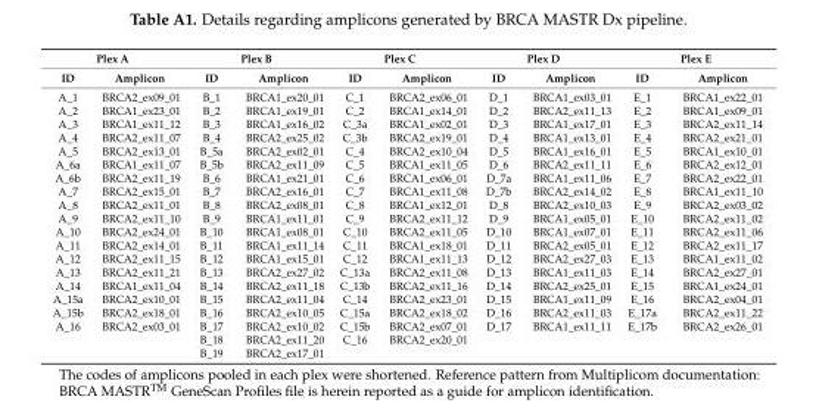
<table><thead><tr><td colspan="2">Plex A</td><td colspan="2">Plex B</td><td colspan="2">Plex C</td><td colspan="2">Plex D</td><td colspan="2">Plex E</td></tr><tr><td>ID</td><td>Amplicon</td><td>ID</td><td>Amplicon</td><td>ID</td><td>Amplicon</td><td>ID</td><td>Amplicon</td><td>ID</td><td>Amplicon</td></tr></thead><tbody><tr><td>A_1</td><td>BRCA2_ex09_01</td><td>B_1</td><td>BRCA1_ex20_01</td><td>C_1</td><td>BRCA2_ex06_01</td><td>D_1</td><td>BRCA1_ex03_01</td><td>E_1</td><td>BRCA1_ex22_01</td></tr><tr><td>A_2</td><td>BRCA1_ex23_01</td><td>B_2</td><td>BRCA1_ex19_01</td><td>C_2</td><td>BRCA1_ex14_01</td><td>D_2</td><td>BRCA2_ex11_13</td><td>E_2</td><td>BRCA1_ex09_01</td></tr><tr><td>A_3</td><td>BRCA1_ex11_12</td><td>B_3</td><td>BRCA1_ex16_02</td><td>C_3a</td><td>BRCA1_ex02_01</td><td>D_3</td><td>BRCA1_ex17_01</td><td>E_3</td><td>BRCA2_ex11_14</td></tr><tr><td>A_4</td><td>BRCA2_ex11_07</td><td>B_4</td><td>BRCA2_ex25_02</td><td>C_3b</td><td>BRCA2_ex19_01</td><td>D_4</td><td>BRCA1_ex13_01</td><td>E_4</td><td>BRCA2_ex21_01</td></tr><tr><td>A_5</td><td>BRCA2_ex13_01</td><td>B_5a</td><td>BRCA2_ex02_01</td><td>C_4</td><td>BRCA2_ex10_04</td><td>D_5</td><td>BRCA1_ex16_01</td><td>E_5</td><td>BRCA1_ex10_01</td></tr><tr><td>A_6a</td><td>BRCA1_ex11_07</td><td>B_5b</td><td>BRCA2_ex11_09</td><td>C_5</td><td>BRCA1_ex11_05</td><td>D_6</td><td>BRCA2_ex11_11</td><td>E_6</td><td>BRCA2_ex12_01</td></tr><tr><td>A_6b</td><td>BRCA2_ex11_19</td><td>B_6</td><td>BRCA1_ex21_01</td><td>C_6</td><td>BRCA1_ex06_01</td><td>D_7a</td><td>BRCA1_ex11_06</td><td>E_7</td><td>BRCA2_ex22_01</td></tr><tr><td>A_7</td><td>BRCA2_ex15_01</td><td>B_7</td><td>BRCA2_ex16_01</td><td>C_7</td><td>BRCA1_ex11_08</td><td>D_7b</td><td>BRCA2_ex14_02</td><td>E_8</td><td>BRCA1_ex11_10</td></tr><tr><td>A_8</td><td>BRCA2_ex11_01</td><td>B_8</td><td>BRCA2_ex08_01</td><td>C_8</td><td>BRCA1_ex12_01</td><td>D_8</td><td>BRCA2_ex10_03</td><td>E_9</td><td>BRCA2_ex03_02</td></tr><tr><td>A_9</td><td>BRCA2_ex11_10</td><td>B_9</td><td>BRCA1_ex11_01</td><td>C_9</td><td>BRCA2_ex11_12</td><td>D_9</td><td>BRCA1_ex05_01</td><td>E_10</td><td>BRCA2_ex11_02</td></tr><tr><td>A_10</td><td>BRCA2_ex24_01</td><td>B_10</td><td>BRCA1_ex08_01</td><td>C_10</td><td>BRCA2_ex11_05</td><td>D_10</td><td>BRCA1_ex07_01</td><td>E_11</td><td>BRCA2_ex11_06</td></tr><tr><td>A_11</td><td>BRCA2_ex14_01</td><td>B_11</td><td>BRCA1_ex11_14</td><td>C_11</td><td>BRCA1_ex18_01</td><td>D_11</td><td>BRCA2_ex05_01</td><td>E_12</td><td>BRCA2_ex11_17</td></tr><tr><td>A_12</td><td>BRCA2_ex11_15</td><td>B_12</td><td>BRCA1_ex15_01</td><td>C_12</td><td>BRCA1_ex11_13</td><td>D_12</td><td>BRCA2_ex27_03</td><td>E_13</td><td>BRCA1_ex11_02</td></tr><tr><td>A_13</td><td>BRCA2_ex11_21</td><td>B_13</td><td>BRCA2_ex27_02</td><td>C_13a</td><td>BRCA2_ex11_08</td><td>D_13</td><td>BRCA1_ex11_03</td><td>E_14</td><td>BRCA2_ex27_01</td></tr><tr><td>A_14</td><td>BRCA1_ex11_04</td><td>B_14</td><td>BRCA2_ex11_18</td><td>C_13b</td><td>BRCA2_ex11_16</td><td>D_14</td><td>BRCA2_ex25_01</td><td>E_15</td><td>BRCA1_ex24_01</td></tr><tr><td>A_15a</td><td>BRCA2_ex10_01</td><td>B_15</td><td>BRCA2_ex11_04</td><td>C_14</td><td>BRCA2_ex23_01</td><td>D_15</td><td>BRCA1_ex11_09</td><td>E_16</td><td>BRCA2_ex04_01</td></tr><tr><td>A_15b</td><td>BRCA2_ex18_01</td><td>B_16</td><td>BRCA2_ex10_05</td><td>C_15a</td><td>BRCA2_ex18_02</td><td>D_16</td><td>BRCA2_ex11_03</td><td>E_17a</td><td>BRCA2_ex11_22</td></tr><tr><td rowspan="3">A_16</td><td>BRCA2_ex03_01</td><td>B_17</td><td>BRCA2_ex10_02</td><td>C_15b</td><td>BRCA2_ex07_01</td><td>D_17</td><td>BRCA1_ex11_11</td><td>E_17b</td><td>BRCA2_ex26_01</td></tr><tr><td></td><td>B_18</td><td>BRCA2_ex11_20</td><td>C_16</td><td>BRCA2_ex20_01</td><td></td><td></td><td></td><td></td></tr><tr><td></td><td>B_19</td><td>BRCA2_ex17_01</td><td></td><td></td><td></td><td></td><td></td><td></td></tr></tbody></table>